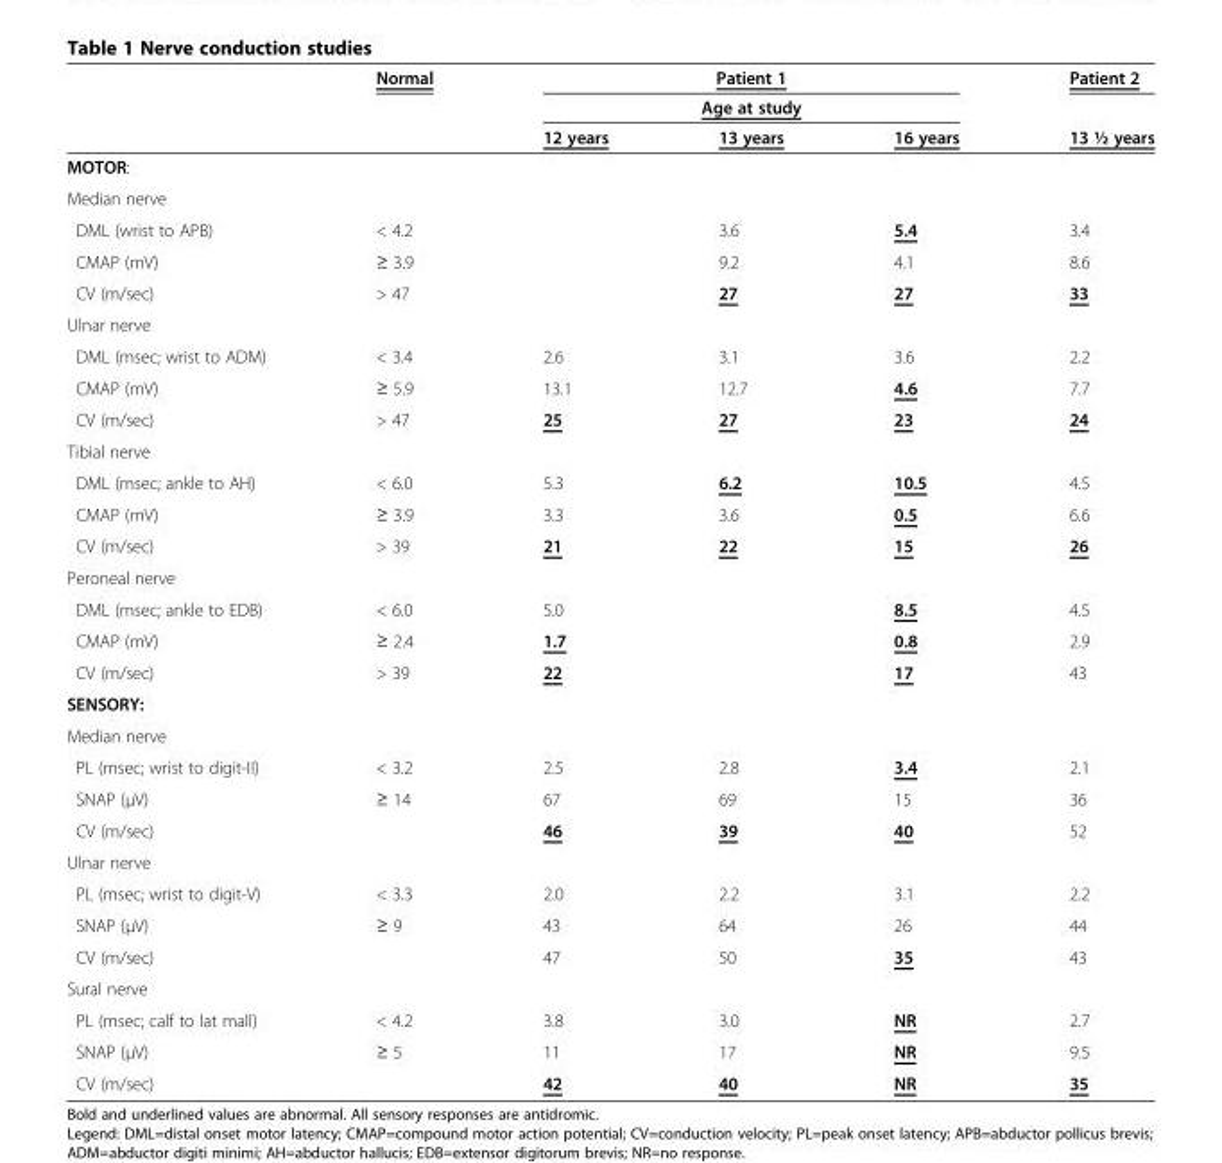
<table><thead><tr><td rowspan="3"></td><td rowspan="3">Normal</td><td rowspan="2" colspan="3">Patient 1 Age at study</td><td rowspan="3">Patient 2 13 ½ years</td></tr><tr></tr><tr><td>12 years</td><td>13 years</td><td>16 years</td></tr></thead><tbody><tr><td colspan="6">MOTOR:</td></tr><tr><td colspan="6">Median nerve</td></tr><tr><td>DML (wrist to APB)</td><td>&lt; 4.2</td><td></td><td>3.6</td><td>5.4</td><td>3.4</td></tr><tr><td>CMAP (mV)</td><td>≥ 3.9</td><td></td><td>9.2</td><td>4.1</td><td>8.6</td></tr><tr><td>CV (m/sec)</td><td>&gt; 47</td><td></td><td>27</td><td>27</td><td>33</td></tr><tr><td colspan="6">Ulnar nerve</td></tr><tr><td>DML (msec; wrist to ADM)</td><td>&lt; 3.4</td><td>2.6</td><td>3.1</td><td>3.6</td><td>2.2</td></tr><tr><td>CMAP (mV)</td><td>≥ 5.9</td><td>13.1</td><td>12.7</td><td>4.6</td><td>7.7</td></tr><tr><td>CV (m/sec)</td><td>&gt; 47</td><td>25</td><td>27</td><td>23</td><td>24</td></tr><tr><td colspan="6">Tibial nerve</td></tr><tr><td>DML (msec; ankle to AH)</td><td>&lt; 6.0</td><td>5.3</td><td>6.2</td><td>10.5</td><td>4.5</td></tr><tr><td>CMAP (mV)</td><td>≥ 3.9</td><td>3.3</td><td>3.6</td><td>0.5</td><td>6.6</td></tr><tr><td>CV (m/sec)</td><td>&gt; 39</td><td>21</td><td>22</td><td>15</td><td>26</td></tr><tr><td colspan="6">Peroneal nerve</td></tr><tr><td>DML (msec; ankle to EDB)</td><td>&lt; 6.0</td><td>5.0</td><td></td><td>8.5</td><td>4.5</td></tr><tr><td>CMAP (mV)</td><td>≥ 2.4</td><td>1.7</td><td></td><td>0.8</td><td>2.9</td></tr><tr><td>CV (m/sec)</td><td>&gt; 39</td><td>22</td><td></td><td>17</td><td>43</td></tr><tr><td colspan="6">SENSORY:</td></tr><tr><td colspan="6">Median nerve</td></tr><tr><td>PL (msec; wrist to digit-II)</td><td>&lt; 3.2</td><td>2.5</td><td>2.8</td><td>3.4</td><td>2.1</td></tr><tr><td>SNAP (μV)</td><td>≥ 14</td><td>67</td><td>69</td><td>15</td><td>36</td></tr><tr><td>CV (m/sec)</td><td></td><td>46</td><td>39</td><td>40</td><td>52</td></tr><tr><td colspan="6">Ulnar nerve</td></tr><tr><td>PL (msec; wrist to digit-V)</td><td>&lt; 3.3</td><td>2.0</td><td>2.2</td><td>3.1</td><td>2.2</td></tr><tr><td>SNAP (μV)</td><td>≥ 9</td><td>43</td><td>64</td><td>26</td><td>44</td></tr><tr><td>CV (m/sec)</td><td></td><td>47</td><td>50</td><td>35</td><td>43</td></tr><tr><td colspan="6">Sural nerve</td></tr><tr><td>PL (msec; calf to lat mall)</td><td>&lt; 4.2</td><td>3.8</td><td>3.0</td><td>NR</td><td>2.7</td></tr><tr><td>SNAP (μV)</td><td>≥ 5</td><td>11</td><td>17</td><td>NR</td><td>9.5</td></tr><tr><td>CV (m/sec)</td><td></td><td>42</td><td>40</td><td>NR</td><td>35</td></tr></tbody></table>